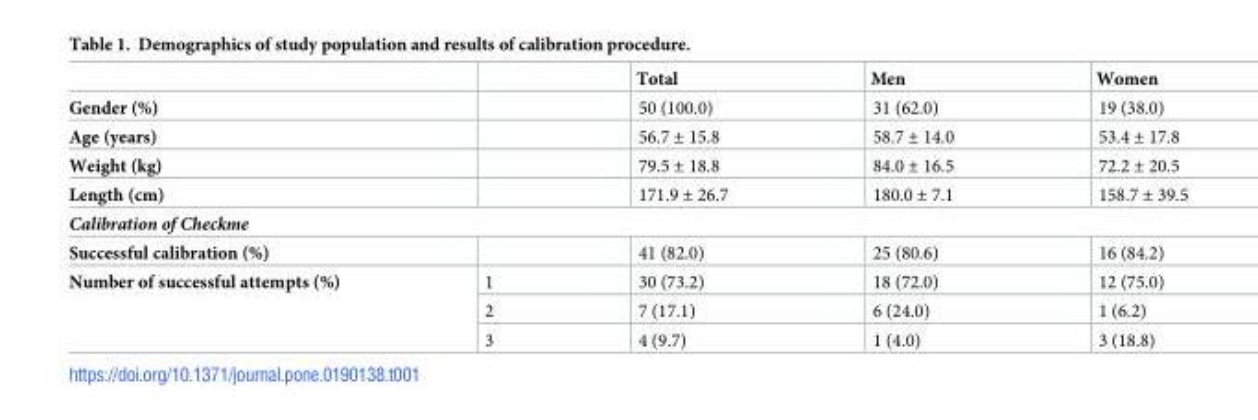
<table><thead><tr><td></td><td></td><td>Total</td><td>Men</td><td>Women</td></tr></thead><tbody><tr><td>Gender (%)</td><td></td><td>50 (100.0)</td><td>31 (62.0)</td><td>19 (38.0)</td></tr><tr><td>Age (years)</td><td></td><td>56.7 ± 15.8</td><td>58.7 ± 14.0</td><td>53.4 ± 17.8</td></tr><tr><td>Weight (kg)</td><td></td><td>79.5 ± 18.8</td><td>84.0 ± 16.5</td><td>72.2 ± 20.5</td></tr><tr><td>Length (cm)</td><td></td><td>171.9 ± 26.7</td><td>180.0 ± 7.1</td><td>158.7 ± 39.5</td></tr><tr><td colspan="5">Calibration of Checkme</td></tr><tr><td>Successful calibration (%)</td><td></td><td>41 (82.0)</td><td>25 (80.6)</td><td>16 (84.2)</td></tr><tr><td rowspan="3">Number of successful attempts (%)</td><td>1</td><td>30 (73.2)</td><td>18 (72.0)</td><td>12 (75.0)</td></tr><tr><td>2</td><td>7 (17.1)</td><td>6 (24.0)</td><td>1 (6.2)</td></tr><tr><td>3</td><td>4 (9.7)</td><td>1 (4.0)</td><td>3 (18.8)</td></tr></tbody></table>